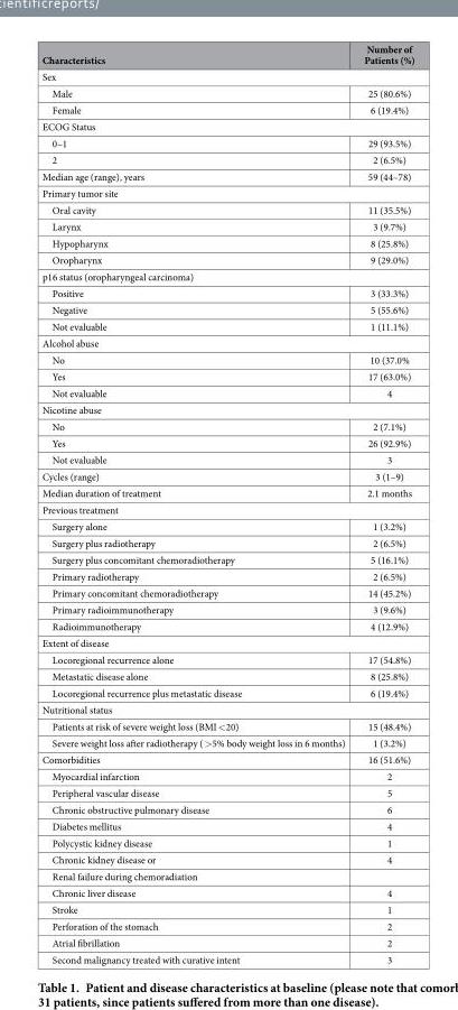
<table><thead><tr><td>Characteristics</td><td>Number of Patients (%)</td></tr></thead><tbody><tr><td colspan="2">Sex</td></tr><tr><td>Male</td><td>25 (80.6%)</td></tr><tr><td>Female</td><td>6 (19.4%)</td></tr><tr><td colspan="2">ECOG Status</td></tr><tr><td>0–1</td><td>29 (93.5%)</td></tr><tr><td>2</td><td>2 (6.5%)</td></tr><tr><td>Median age (range), years</td><td>59 (44–78)</td></tr><tr><td colspan="2">Primary tumor site</td></tr><tr><td>Oral cavity</td><td>11 (35.5%)</td></tr><tr><td>Larynx</td><td>3 (9.7%)</td></tr><tr><td>Hypopharynx</td><td>8 (25.8%)</td></tr><tr><td>Oropharynx</td><td>9 (29.0%)</td></tr><tr><td colspan="2">p16 status (oropharyngeal carcinoma)</td></tr><tr><td>Positive</td><td>3 (33.3%)</td></tr><tr><td>Negative</td><td>5 (55.6%)</td></tr><tr><td>Not evaluable</td><td>1 (11.1%)</td></tr><tr><td colspan="2">Alcohol abuse</td></tr><tr><td>No</td><td>10 (37.0%</td></tr><tr><td>Yes</td><td>17 (63.0%)</td></tr><tr><td>Not evaluable</td><td>4</td></tr><tr><td colspan="2">Nicotine abuse</td></tr><tr><td>No</td><td>2 (7.1%)</td></tr><tr><td>Yes</td><td>26 (92.9%)</td></tr><tr><td>Not evaluable</td><td>3</td></tr><tr><td>Cycles (range)</td><td>3 (1–9)</td></tr><tr><td>Median duration of treatment</td><td>2.1 months</td></tr><tr><td colspan="2">Previous treatment</td></tr><tr><td>Surgery alone</td><td>1 (3.2%)</td></tr><tr><td>Surgery plus radiotherapy</td><td>2 (6.5%)</td></tr><tr><td>Surgery plus concomitant chemoradiotherapy</td><td>5 (16.1%)</td></tr><tr><td>Primary radiotherapy</td><td>2 (6.5%)</td></tr><tr><td>Primary concomitant chemoradiotherapy</td><td>14 (45.2%)</td></tr><tr><td>Primary radioimmunotherapy</td><td>3 (9.6%)</td></tr><tr><td>Radioimmunotherapy</td><td>4 (12.9%)</td></tr><tr><td colspan="2">Extent of disease</td></tr><tr><td>Locoregional recurrence alone</td><td>17 (54.8%)</td></tr><tr><td>Metastatic disease alone</td><td>8 (25.8%)</td></tr><tr><td>Locoregional recurrence plus metastatic disease</td><td>6 (19.4%)</td></tr><tr><td colspan="2">Nutritional status</td></tr><tr><td>Patients at risk of severe weight loss (BMI &lt;20)</td><td>15 (48.4%)</td></tr><tr><td>Severe weight loss after radiotherapy ( &gt;5% body weight loss in 6 months)</td><td>1 (3.2%)</td></tr><tr><td>Comorbidities</td><td>16 (51.6%)</td></tr><tr><td>Myocardial infarction</td><td>2</td></tr><tr><td>Peripheral vascular disease</td><td>5</td></tr><tr><td>Chronic obstructive pulmonary disease</td><td>6</td></tr><tr><td>Diabetes mellitus</td><td>4</td></tr><tr><td>Polycystic kidney disease</td><td>1</td></tr><tr><td>Chronic kidney disease or</td><td>4</td></tr><tr><td colspan="2">Renal failure during chemoradiation</td></tr><tr><td>Chronic liver disease</td><td>4</td></tr><tr><td>Stroke</td><td>1</td></tr><tr><td>Perforation of the stomach</td><td>2</td></tr><tr><td>Atrial fibrillation</td><td>2</td></tr><tr><td>Second malignancy treated with curative intent</td><td>3</td></tr></tbody></table>